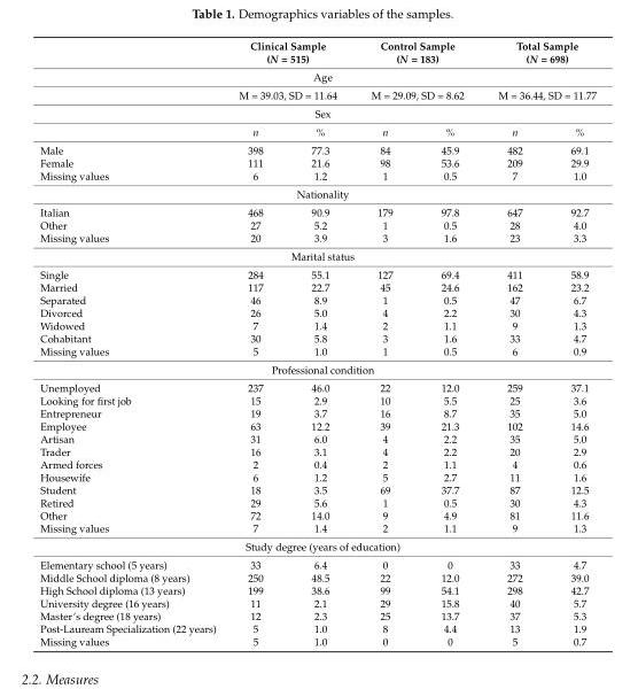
<table><thead><tr><td></td><td colspan="2">Clinical Sample (N = 515)</td><td colspan="2">Control Sample (N = 183)</td><td colspan="2">Total Sample (N = 698)</td></tr></thead><tbody><tr><td colspan="7">Age</td></tr><tr><td></td><td colspan="2">M = 39.03, SD = 11.64</td><td colspan="2">M = 29.09, SD = 8.62</td><td colspan="2">M = 36.44, SD = 11.77</td></tr><tr><td colspan="7">Sex</td></tr><tr><td></td><td>n</td><td>%</td><td>n</td><td>%</td><td>n</td><td>%</td></tr><tr><td>Male</td><td>398</td><td>77.3</td><td>84</td><td>45.9</td><td>482</td><td>69.1</td></tr><tr><td>Female</td><td>111</td><td>21.6</td><td>98</td><td>53.6</td><td>209</td><td>29.9</td></tr><tr><td>Missing values</td><td>6</td><td>1.2</td><td>1</td><td>0.5</td><td>7</td><td>1.0</td></tr><tr><td colspan="7">Nationality</td></tr><tr><td>Italian</td><td>468</td><td>90.9</td><td>179</td><td>97.8</td><td>647</td><td>92.7</td></tr><tr><td>Other</td><td>27</td><td>5.2</td><td>1</td><td>0.5</td><td>28</td><td>4.0</td></tr><tr><td>Missing values</td><td>20</td><td>3.9</td><td>3</td><td>1.6</td><td>23</td><td>3.3</td></tr><tr><td colspan="7">Marital status</td></tr><tr><td>Single</td><td>284</td><td>55.1</td><td>127</td><td>69.4</td><td>411</td><td>58.9</td></tr><tr><td>Married</td><td>117</td><td>22.7</td><td>45</td><td>24.6</td><td>162</td><td>23.2</td></tr><tr><td>Separated</td><td>46</td><td>8.9</td><td>1</td><td>0.5</td><td>47</td><td>6.7</td></tr><tr><td>Divorced</td><td>26</td><td>5.0</td><td>4</td><td>2.2</td><td>30</td><td>4.3</td></tr><tr><td>Widowed</td><td>7</td><td>1.4</td><td>2</td><td>1.1</td><td>9</td><td>1.3</td></tr><tr><td>Cohabitant</td><td>30</td><td>5.8</td><td>3</td><td>1.6</td><td>33</td><td>4.7</td></tr><tr><td>Missing values</td><td>5</td><td>1.0</td><td>1</td><td>0.5</td><td>6</td><td>0.9</td></tr><tr><td colspan="7">Professional condition</td></tr><tr><td>Unemployed</td><td>237</td><td>46.0</td><td>22</td><td>12.0</td><td>259</td><td>37.1</td></tr><tr><td>Looking for first job</td><td>15</td><td>2.9</td><td>10</td><td>5.5</td><td>25</td><td>3.6</td></tr><tr><td>Entrepreneur</td><td>19</td><td>3.7</td><td>16</td><td>8.7</td><td>35</td><td>5.0</td></tr><tr><td>Employee</td><td>63</td><td>12.2</td><td>39</td><td>21.3</td><td>102</td><td>14.6</td></tr><tr><td>Artisan</td><td>31</td><td>6.0</td><td>4</td><td>2.2</td><td>35</td><td>5.0</td></tr><tr><td>Trader</td><td>16</td><td>3.1</td><td>4</td><td>2.2</td><td>20</td><td>2.9</td></tr><tr><td>Armed forces</td><td>2</td><td>0.4</td><td>2</td><td>1.1</td><td>4</td><td>0.6</td></tr><tr><td>Housewife</td><td>6</td><td>1.2</td><td>5</td><td>2.7</td><td>11</td><td>1.6</td></tr><tr><td>Student</td><td>18</td><td>3.5</td><td>69</td><td>37.7</td><td>87</td><td>12.5</td></tr><tr><td>Retired</td><td>29</td><td>5.6</td><td>1</td><td>0.5</td><td>30</td><td>4.3</td></tr><tr><td>Other</td><td>72</td><td>14.0</td><td>9</td><td>4.9</td><td>81</td><td>11.6</td></tr><tr><td>Missing values</td><td>7</td><td>1.4</td><td>2</td><td>1.1</td><td>9</td><td>1.3</td></tr><tr><td colspan="7">Study degree (years of education)</td></tr><tr><td>Elementary school (5 years)</td><td>33</td><td>6.4</td><td>0</td><td>0</td><td>33</td><td>4.7</td></tr><tr><td>Middle School diploma (8 years)</td><td>250</td><td>48.5</td><td>22</td><td>12.0</td><td>272</td><td>39.0</td></tr><tr><td>High School diploma (13 years)</td><td>199</td><td>38.6</td><td>99</td><td>54.1</td><td>298</td><td>42.7</td></tr><tr><td>University degree (16 years)</td><td>11</td><td>2.1</td><td>29</td><td>15.8</td><td>40</td><td>5.7</td></tr><tr><td>Master’s degree (18 years)</td><td>12</td><td>2.3</td><td>25</td><td>13.7</td><td>37</td><td>5.3</td></tr><tr><td>Post-Lauream Specialization (22 years)</td><td>5</td><td>1.0</td><td>8</td><td>4.4</td><td>13</td><td>1.9</td></tr><tr><td>Missing values</td><td>5</td><td>1.0</td><td>0</td><td>0</td><td>5</td><td>0.7</td></tr></tbody></table>